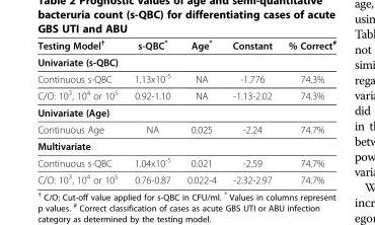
<table><thead><tr><td>Testing Model<sup>†</sup></td><td>s-QBC*</td><td>Age*</td><td>Constant</td><td>% Correct<sup>#</sup></td></tr></thead><tbody><tr><td colspan="5">Univariate (s-QBC)</td></tr><tr><td>Continuous s-QBC</td><td>1.13x10<sup>-5</sup></td><td>NA</td><td>-1.776</td><td>74.3%</td></tr><tr><td>C/O: 10<sup>3</sup>, 10<sup>4</sup> or 10<sup>5</sup></td><td>0.92-1.10</td><td>NA</td><td>-1.13-2.02</td><td>74.3%</td></tr><tr><td colspan="5">Univariate (Age)</td></tr><tr><td>Continuous Age</td><td>NA</td><td>0.025</td><td>-2.24</td><td>74.7%</td></tr><tr><td colspan="5">Multivariate</td></tr><tr><td>Continuous s-QBC</td><td>1.04x10<sup>-5</sup></td><td>0.021</td><td>-2.59</td><td>74.7%</td></tr><tr><td>C/O: 10<sup>3</sup>, 10<sup>4</sup> or 10<sup>5</sup></td><td>0.76-0.87</td><td>0.022-4</td><td>-2.32-2.97</td><td>74.7%</td></tr></tbody></table>